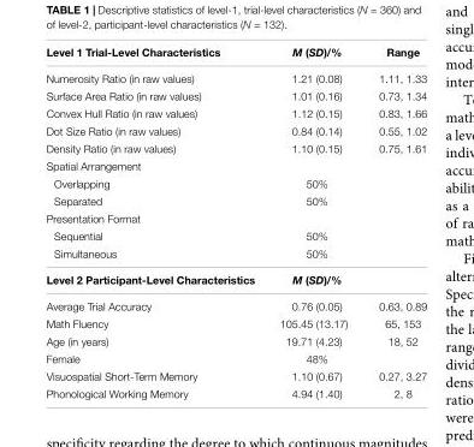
<table><thead><tr><td>Level 1 Trial-Level Characteristics</td><td>M (SD)/%</td><td>Range</td></tr></thead><tbody><tr><td>Numerosity Ratio (in raw values)</td><td>1.21 (0.08)</td><td>1.11, 1.33</td></tr><tr><td>Surface Area Ratio (in raw values)</td><td>1.01 (0.16)</td><td>0.73, 1.34</td></tr><tr><td>Convex Hull Ratio (in raw values)</td><td>1.12 (0.15)</td><td>0.83, 1.66</td></tr><tr><td>Dot Size Ratio (in raw values)</td><td>0.84 (0.14)</td><td>0.55, 1.02</td></tr><tr><td>Density Ratio (in raw values)</td><td>1.10 (0.15)</td><td>0.75, 1.61</td></tr><tr><td colspan="3">Spatial Arrangement</td></tr><tr><td>Overlapping</td><td>50%</td><td></td></tr><tr><td>Separated</td><td>50%</td><td></td></tr><tr><td colspan="3">Presentation Format</td></tr><tr><td>Sequential</td><td>50%</td><td></td></tr><tr><td>Simultaneous</td><td>50%</td><td></td></tr><tr><td>Level 2 Participant-Level Characteristics</td><td>M (SD)/%</td><td></td></tr><tr><td>Average Trial Accuracy</td><td>0.76 (0.05)</td><td>0.63, 0.89</td></tr><tr><td>Math Fluency</td><td>105.45 (13.17)</td><td>65, 153</td></tr><tr><td>Age (in years)</td><td>19.71 (4.23)</td><td>18, 52</td></tr><tr><td>Female</td><td>48%</td><td></td></tr><tr><td>Visuospatial Short-Term Memory</td><td>1.10 (0.67)</td><td>0.27, 3.27</td></tr><tr><td>Phonological Working Memory</td><td>4.94 (1.40)</td><td>2, 8</td></tr></tbody></table>